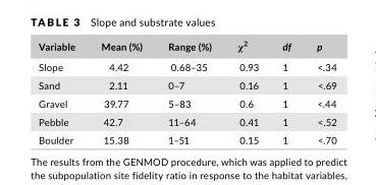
<table><thead><tr><td>Variable</td><td>Mean (%)</td><td>Range (%)</td><td>χ<sup>2</sup></td><td>df</td><td>p</td></tr></thead><tbody><tr><td>Slope</td><td>4.42</td><td>0.68–35</td><td>0.93</td><td>1</td><td>&lt;.34</td></tr><tr><td>Sand</td><td>2.11</td><td>0–7</td><td>0.16</td><td>1</td><td>&lt;.69</td></tr><tr><td>Gravel</td><td>39.77</td><td>5–83</td><td>0.6</td><td>1</td><td>&lt;.44</td></tr><tr><td>Pebble</td><td>42.7</td><td>11–64</td><td>0.41</td><td>1</td><td>&lt;.52</td></tr><tr><td>Boulder</td><td>15.38</td><td>1–51</td><td>0.15</td><td>1</td><td>&lt;.70</td></tr></tbody></table>